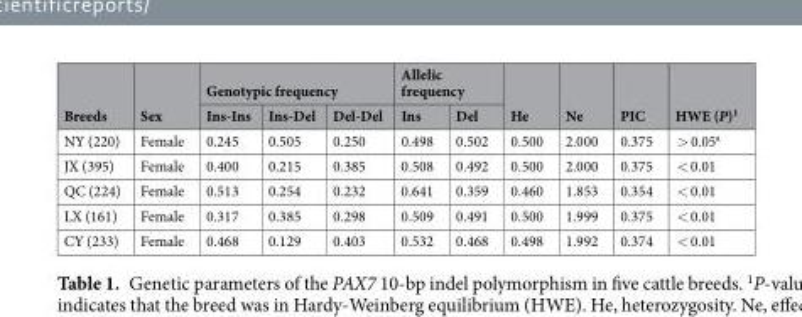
<table><thead><tr><td rowspan="2">Breeds</td><td rowspan="2">Sex</td><td colspan="3">Genotypic frequency</td><td colspan="2">Allelic frequency</td><td rowspan="2">He</td><td rowspan="2">Ne</td><td rowspan="2">PIC</td><td rowspan="2">HWE (P)<sup>1</sup></td></tr><tr><td>Ins-Ins</td><td>Ins-Del</td><td>Del-Del</td><td>Ins</td><td>Del</td></tr></thead><tbody><tr><td>NY (220)</td><td>Female</td><td>0.245</td><td>0.505</td><td>0.250</td><td>0.498</td><td>0.502</td><td>0.500</td><td>2.000</td><td>0.375</td><td>&gt; 0.05<sup>a</sup></td></tr><tr><td>JX (395)</td><td>Female</td><td>0.400</td><td>0.215</td><td>0.385</td><td>0.508</td><td>0.492</td><td>0.500</td><td>2.000</td><td>0.375</td><td>&lt; 0.01</td></tr><tr><td>QC (224)</td><td>Female</td><td>0.513</td><td>0.254</td><td>0.232</td><td>0.641</td><td>0.359</td><td>0.460</td><td>1.853</td><td>0.354</td><td>&lt; 0.01</td></tr><tr><td>LX (161)</td><td>Female</td><td>0.317</td><td>0.385</td><td>0.298</td><td>0.509</td><td>0.491</td><td>0.500</td><td>1.999</td><td>0.375</td><td>&lt; 0.01</td></tr><tr><td>CY (233)</td><td>Female</td><td>0.468</td><td>0.129</td><td>0.403</td><td>0.532</td><td>0.468</td><td>0.498</td><td>1.992</td><td>0.374</td><td>&lt; 0.01</td></tr></tbody></table>